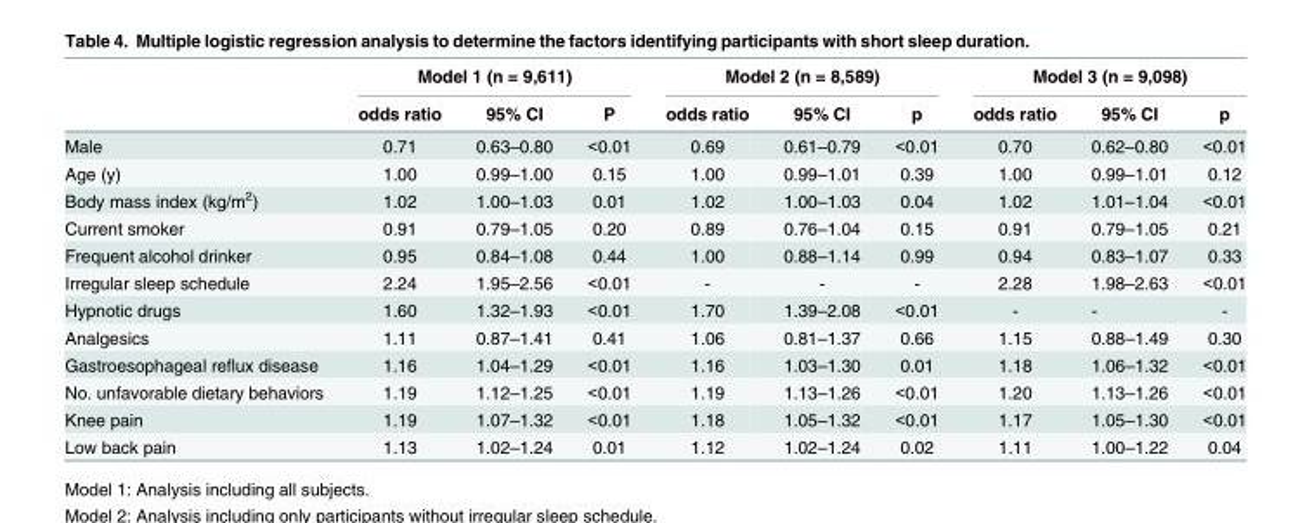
<table><thead><tr><td rowspan="2"></td><td colspan="3">Model 1 (n = 9,611)</td><td colspan="3">Model 2 (n = 8,589)</td><td colspan="3">Model 3 (n = 9,098)</td></tr><tr><td>odds ratio</td><td>95% CI</td><td>P</td><td>odds ratio</td><td>95% CI</td><td>p</td><td>odds ratio</td><td>95% CI</td><td>p</td></tr></thead><tbody><tr><td>Male</td><td>0.71</td><td>0.63–0.80</td><td>&lt;0.01</td><td>0.69</td><td>0.61–0.79</td><td>&lt;0.01</td><td>0.70</td><td>0.62–0.80</td><td>&lt;0.01</td></tr><tr><td>Age (y)</td><td>1.00</td><td>0.99–1.00</td><td>0.15</td><td>1.00</td><td>0.99–1.01</td><td>0.39</td><td>1.00</td><td>0.99–1.01</td><td>0.12</td></tr><tr><td>Body mass index (kg/m<sup>2</sup>)</td><td>1.02</td><td>1.00–1.03</td><td>0.01</td><td>1.02</td><td>1.00–1.03</td><td>0.04</td><td>1.02</td><td>1.01–1.04</td><td>&lt;0.01</td></tr><tr><td>Current smoker</td><td>0.91</td><td>0.79–1.05</td><td>0.20</td><td>0.89</td><td>0.76–1.04</td><td>0.15</td><td>0.91</td><td>0.79–1.05</td><td>0.21</td></tr><tr><td>Frequent alcohol drinker</td><td>0.95</td><td>0.84–1.08</td><td>0.44</td><td>1.00</td><td>0.88–1.14</td><td>0.99</td><td>0.94</td><td>0.83–1.07</td><td>0.33</td></tr><tr><td>Irregular sleep schedule</td><td>2.24</td><td>1.95–2.56</td><td>&lt;0.01</td><td>-</td><td>-</td><td>-</td><td>2.28</td><td>1.98–2.63</td><td>&lt;0.01</td></tr><tr><td>Hypnotic drugs</td><td>1.60</td><td>1.32–1.93</td><td>&lt;0.01</td><td>1.70</td><td>1.39–2.08</td><td>&lt;0.01</td><td>-</td><td>-</td><td>-</td></tr><tr><td>Analgesics</td><td>1.11</td><td>0.87–1.41</td><td>0.41</td><td>1.06</td><td>0.81–1.37</td><td>0.66</td><td>1.15</td><td>0.88–1.49</td><td>0.30</td></tr><tr><td>Gastroesophageal reflux disease</td><td>1.16</td><td>1.04–1.29</td><td>&lt;0.01</td><td>1.16</td><td>1.03–1.30</td><td>0.01</td><td>1.18</td><td>1.06–1.32</td><td>&lt;0.01</td></tr><tr><td>No. unfavorable dietary behaviors</td><td>1.19</td><td>1.12–1.25</td><td>&lt;0.01</td><td>1.19</td><td>1.13–1.26</td><td>&lt;0.01</td><td>1.20</td><td>1.13–1.26</td><td>&lt;0.01</td></tr><tr><td>Knee pain</td><td>1.19</td><td>1.07–1.32</td><td>&lt;0.01</td><td>1.18</td><td>1.05–1.32</td><td>&lt;0.01</td><td>1.17</td><td>1.05–1.30</td><td>&lt;0.01</td></tr><tr><td>Low back pain</td><td>1.13</td><td>1.02–1.24</td><td>0.01</td><td>1.12</td><td>1.02–1.24</td><td>0.02</td><td>1.11</td><td>1.00–1.22</td><td>0.04</td></tr></tbody></table>